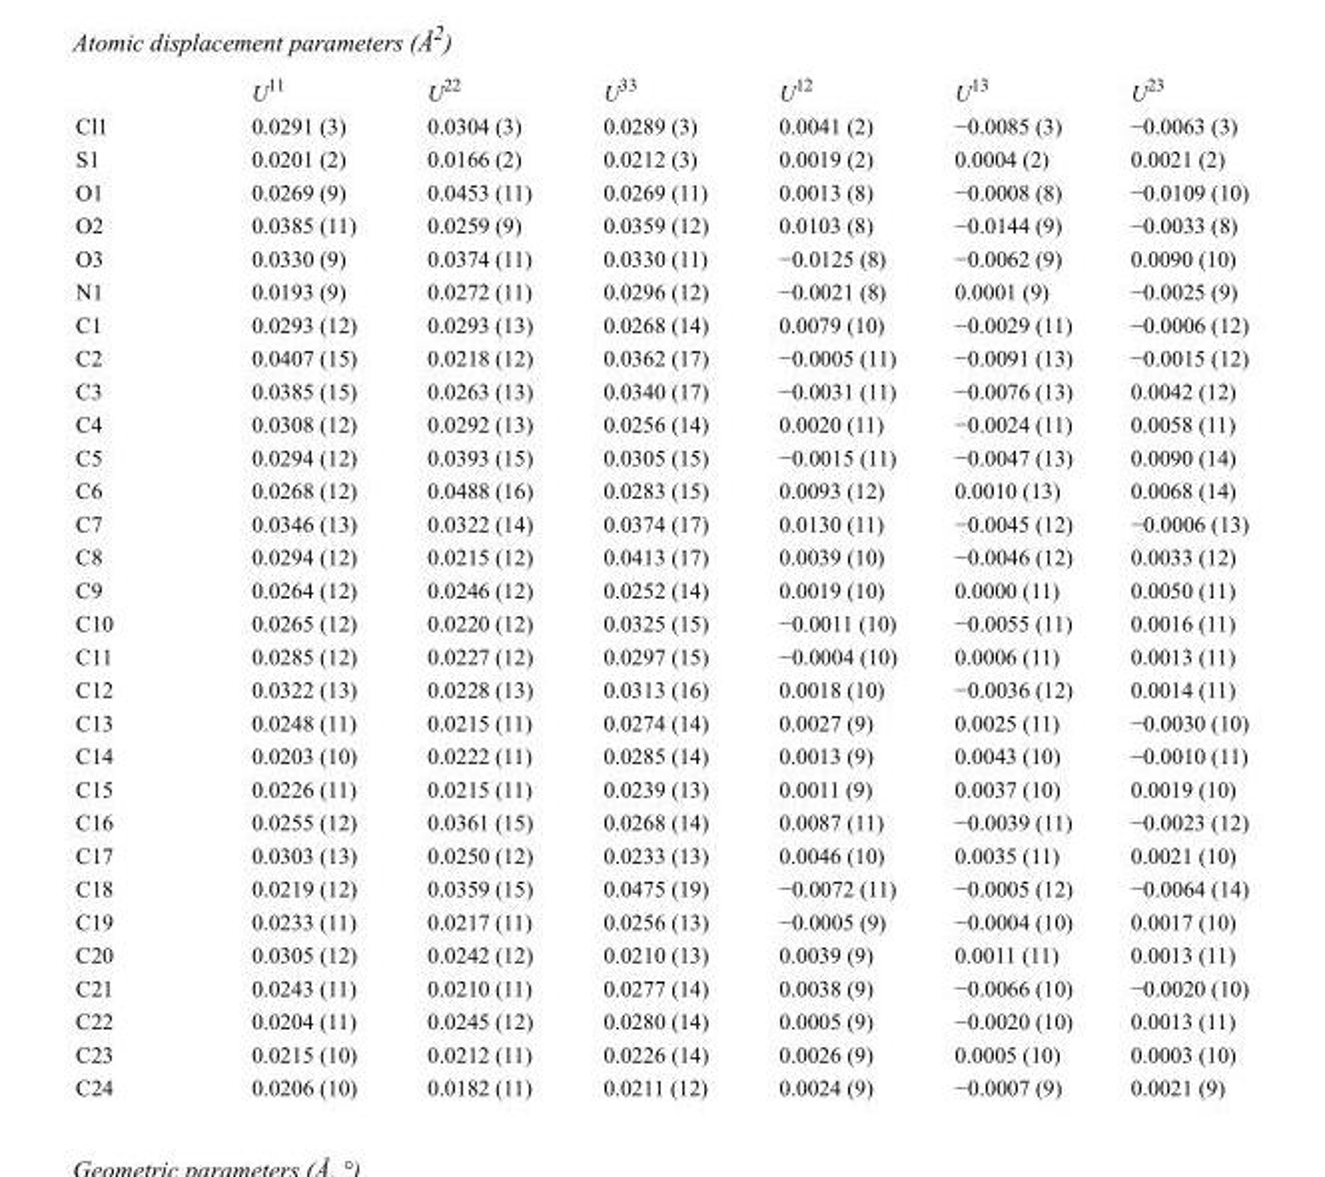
<table><thead><tr><td></td><td>U<sup>11</sup></td><td>U<sup>22</sup></td><td>U<sup>33</sup></td><td>U<sup>12</sup></td><td>U<sup>13</sup></td><td>U<sup>23</sup></td></tr></thead><tbody><tr><td>Cl1</td><td>0.0291 (3)</td><td>0.0304 (3)</td><td>0.0289 (3)</td><td>0.0041 (2)</td><td>−0.0085 (3)</td><td>−0.0063 (3)</td></tr><tr><td>S1</td><td>0.0201 (2)</td><td>0.0166 (2)</td><td>0.0212 (3)</td><td>0.0019 (2)</td><td>0.0004 (2)</td><td>0.0021 (2)</td></tr><tr><td>O1</td><td>0.0269 (9)</td><td>0.0453 (11)</td><td>0.0269 (11)</td><td>0.0013 (8)</td><td>−0.0008 (8)</td><td>−0.0109 (10)</td></tr><tr><td>O2</td><td>0.0385 (11)</td><td>0.0259 (9)</td><td>0.0359 (12)</td><td>0.0103 (8)</td><td>−0.0144 (9)</td><td>−0.0033 (8)</td></tr><tr><td>O3</td><td>0.0330 (9)</td><td>0.0374 (11)</td><td>0.0330 (11)</td><td>−0.0125 (8)</td><td>−0.0062 (9)</td><td>0.0090 (10)</td></tr><tr><td>N1</td><td>0.0193 (9)</td><td>0.0272 (11)</td><td>0.0296 (12)</td><td>−0.0021 (8)</td><td>0.0001 (9)</td><td>−0.0025 (9)</td></tr><tr><td>C1</td><td>0.0293 (12)</td><td>0.0293 (13)</td><td>0.0268 (14)</td><td>0.0079 (10)</td><td>−0.0029 (11)</td><td>−0.0006 (12)</td></tr><tr><td>C2</td><td>0.0407 (15)</td><td>0.0218 (12)</td><td>0.0362 (17)</td><td>−0.0005 (11)</td><td>−0.0091 (13)</td><td>−0.0015 (12)</td></tr><tr><td>C3</td><td>0.0385 (15)</td><td>0.0263 (13)</td><td>0.0340 (17)</td><td>−0.0031 (11)</td><td>−0.0076 (13)</td><td>0.0042 (12)</td></tr><tr><td>C4</td><td>0.0308 (12)</td><td>0.0292 (13)</td><td>0.0256 (14)</td><td>0.0020 (11)</td><td>−0.0024 (11)</td><td>0.0058 (11)</td></tr><tr><td>C5</td><td>0.0294 (12)</td><td>0.0393 (15)</td><td>0.0305 (15)</td><td>−0.0015 (11)</td><td>−0.0047 (13)</td><td>0.0090 (14)</td></tr><tr><td>C6</td><td>0.0268 (12)</td><td>0.0488 (16)</td><td>0.0283 (15)</td><td>0.0093 (12)</td><td>0.0010 (13)</td><td>0.0068 (14)</td></tr><tr><td>C7</td><td>0.0346 (13)</td><td>0.0322 (14)</td><td>0.0374 (17)</td><td>0.0130 (11)</td><td>−0.0045 (12)</td><td>−0.0006 (13)</td></tr><tr><td>C8</td><td>0.0294 (12)</td><td>0.0215 (12)</td><td>0.0413 (17)</td><td>0.0039 (10)</td><td>−0.0046 (12)</td><td>0.0033 (12)</td></tr><tr><td>C9</td><td>0.0264 (12)</td><td>0.0246 (12)</td><td>0.0252 (14)</td><td>0.0019 (10)</td><td>0.0000 (11)</td><td>0.0050 (11)</td></tr><tr><td>C10</td><td>0.0265 (12)</td><td>0.0220 (12)</td><td>0.0325 (15)</td><td>−0.0011 (10)</td><td>−0.0055 (11)</td><td>0.0016 (11)</td></tr><tr><td>C11</td><td>0.0285 (12)</td><td>0.0227 (12)</td><td>0.0297 (15)</td><td>−0.0004 (10)</td><td>0.0006 (11)</td><td>0.0013 (11)</td></tr><tr><td>C12</td><td>0.0322 (13)</td><td>0.0228 (13)</td><td>0.0313 (16)</td><td>0.0018 (10)</td><td>−0.0036 (12)</td><td>0.0014 (11)</td></tr><tr><td>C13</td><td>0.0248 (11)</td><td>0.0215 (11)</td><td>0.0274 (14)</td><td>0.0027 (9)</td><td>0.0025 (11)</td><td>−0.0030 (10)</td></tr><tr><td>C14</td><td>0.0203 (10)</td><td>0.0222 (11)</td><td>0.0285 (14)</td><td>0.0013 (9)</td><td>0.0043 (10)</td><td>−0.0010 (11)</td></tr><tr><td>C15</td><td>0.0226 (11)</td><td>0.0215 (11)</td><td>0.0239 (13)</td><td>0.0011 (9)</td><td>0.0037 (10)</td><td>0.0019 (10)</td></tr><tr><td>C16</td><td>0.0255 (12)</td><td>0.0361 (15)</td><td>0.0268 (14)</td><td>0.0087 (11)</td><td>−0.0039 (11)</td><td>−0.0023 (12)</td></tr><tr><td>C17</td><td>0.0303 (13)</td><td>0.0250 (12)</td><td>0.0233 (13)</td><td>0.0046 (10)</td><td>0.0035 (11)</td><td>0.0021 (10)</td></tr><tr><td>C18</td><td>0.0219 (12)</td><td>0.0359 (15)</td><td>0.0475 (19)</td><td>−0.0072 (11)</td><td>−0.0005 (12)</td><td>−0.0064 (14)</td></tr><tr><td>C19</td><td>0.0233 (11)</td><td>0.0217 (11)</td><td>0.0256 (13)</td><td>−0.0005 (9)</td><td>−0.0004 (10)</td><td>0.0017 (10)</td></tr><tr><td>C20</td><td>0.0305 (12)</td><td>0.0242 (12)</td><td>0.0210 (13)</td><td>0.0039 (9)</td><td>0.0011 (11)</td><td>0.0013 (11)</td></tr><tr><td>C21</td><td>0.0243 (11)</td><td>0.0210 (11)</td><td>0.0277 (14)</td><td>0.0038 (9)</td><td>−0.0066 (10)</td><td>−0.0020 (10)</td></tr><tr><td>C22</td><td>0.0204 (11)</td><td>0.0245 (12)</td><td>0.0280 (14)</td><td>0.0005 (9)</td><td>−0.0020 (10)</td><td>0.0013 (11)</td></tr><tr><td>C23</td><td>0.0215 (10)</td><td>0.0212 (11)</td><td>0.0226 (14)</td><td>0.0026 (9)</td><td>0.0005 (10)</td><td>0.0003 (10)</td></tr><tr><td>C24</td><td>0.0206 (10)</td><td>0.0182 (11)</td><td>0.0211 (12)</td><td>0.0024 (9)</td><td>−0.0007 (9)</td><td>0.0021 (9)</td></tr></tbody></table>